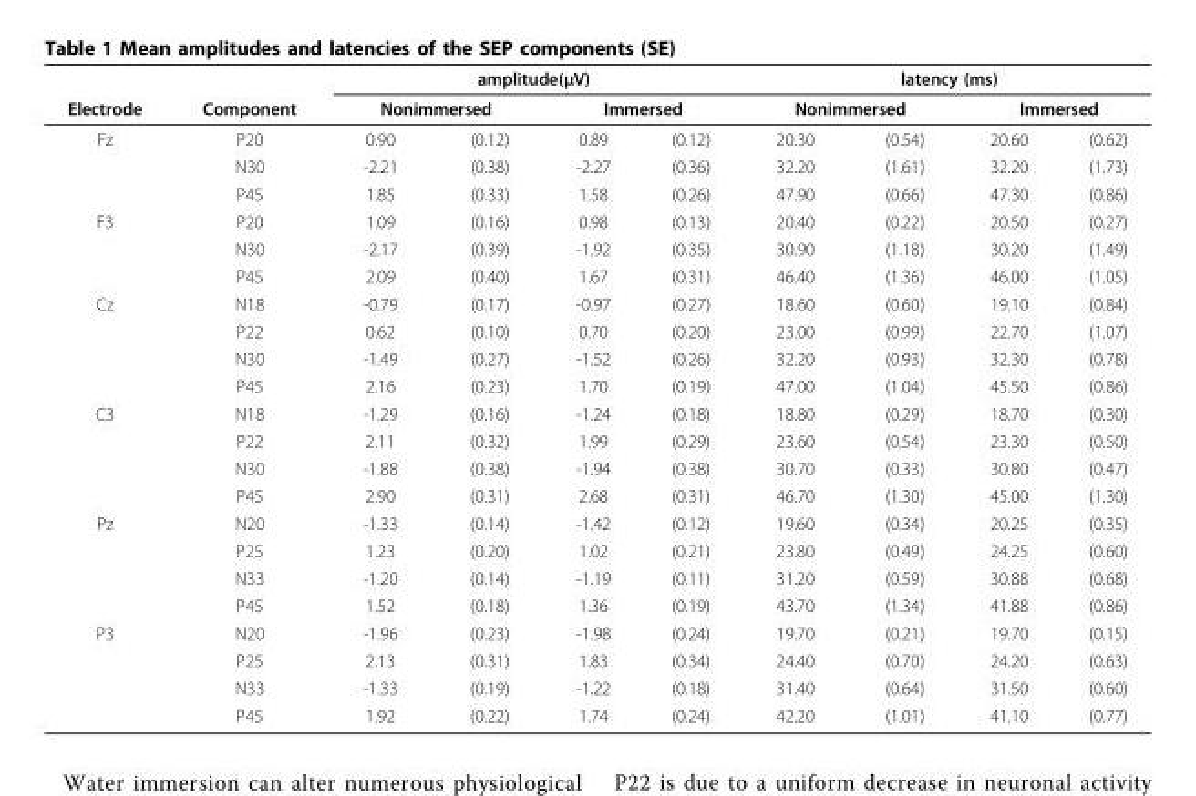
<table><thead><tr><td rowspan="3">Electrode Fz</td><td rowspan="3">Component P20</td><td colspan="4">amplitude(μV)</td><td colspan="4">latency (ms)</td></tr><tr><td colspan="2">Nonimmersed</td><td colspan="2">Immersed</td><td colspan="2">Nonimmersed</td><td colspan="2">Immersed</td></tr><tr><td>0.90</td><td>(0.12)</td><td>0.89</td><td>(0.12)</td><td>20.30</td><td>(0.54)</td><td>20.60</td><td>(0.62)</td></tr></thead><tbody><tr><td></td><td>N30</td><td>-2.21</td><td>(0.38)</td><td>-2.27</td><td>(0.36)</td><td>32.20</td><td>(1.61)</td><td>32.20</td><td>(1.73)</td></tr><tr><td></td><td>P45</td><td>1.85</td><td>(0.33)</td><td>1.58</td><td>(0.26)</td><td>47.90</td><td>(0.66)</td><td>47.30</td><td>(0.86)</td></tr><tr><td rowspan="3">F3</td><td>P20</td><td>1.09</td><td>(0.16)</td><td>0.98</td><td>(0.13)</td><td>20.40</td><td>(0.22)</td><td>20.50</td><td>(0.27)</td></tr><tr><td>N30</td><td>-2.17</td><td>(0.39)</td><td>-1.92</td><td>(0.35)</td><td>30.90</td><td>(1.18)</td><td>30.20</td><td>(1.49)</td></tr><tr><td>P45</td><td>2.09</td><td>(0.40)</td><td>1.67</td><td>(0.31)</td><td>46.40</td><td>(1.36)</td><td>46.00</td><td>(1.05)</td></tr><tr><td rowspan="4">Cz</td><td>N18</td><td>-0.79</td><td>(0.17)</td><td>-0.97</td><td>(0.27)</td><td>18.60</td><td>(0.60)</td><td>19.10</td><td>(0.84)</td></tr><tr><td>P22</td><td>0.62</td><td>(0.10)</td><td>0.70</td><td>(0.20)</td><td>23.00</td><td>(0.99)</td><td>22.70</td><td>(1.07)</td></tr><tr><td>N30</td><td>-1.49</td><td>(0.27)</td><td>-1.52</td><td>(0.26)</td><td>32.20</td><td>(0.93)</td><td>32.30</td><td>(0.78)</td></tr><tr><td>P45</td><td>2.16</td><td>(0.23)</td><td>1.70</td><td>(0.19)</td><td>47.00</td><td>(1.04)</td><td>45.50</td><td>(0.86)</td></tr><tr><td rowspan="4">C3</td><td>N18</td><td>-1.29</td><td>(0.16)</td><td>-1.24</td><td>(0.18)</td><td>18.80</td><td>(0.29)</td><td>18.70</td><td>(0.30)</td></tr><tr><td>P22</td><td>2.11</td><td>(0.32)</td><td>1.99</td><td>(0.29)</td><td>23.60</td><td>(0.54)</td><td>23.30</td><td>(0.50)</td></tr><tr><td>N30</td><td>-1.88</td><td>(0.38)</td><td>-1.94</td><td>(0.38)</td><td>30.70</td><td>(0.33)</td><td>30.80</td><td>(0.47)</td></tr><tr><td>P45</td><td>2.90</td><td>(0.31)</td><td>2.68</td><td>(0.31)</td><td>46.70</td><td>(1.30)</td><td>45.00</td><td>(1.30)</td></tr><tr><td rowspan="4">Pz</td><td>N20</td><td>-1.33</td><td>(0.14)</td><td>-1.42</td><td>(0.12)</td><td>19.60</td><td>(0.34)</td><td>20.25</td><td>(0.35)</td></tr><tr><td>P25</td><td>1.23</td><td>(0.20)</td><td>1.02</td><td>(0.21)</td><td>23.80</td><td>(0.49)</td><td>24.25</td><td>(0.60)</td></tr><tr><td>N33</td><td>-1.20</td><td>(0.14)</td><td>-1.19</td><td>(0.11)</td><td>31.20</td><td>(0.59)</td><td>30.88</td><td>(0.68)</td></tr><tr><td>P45</td><td>1.52</td><td>(0.18)</td><td>1.36</td><td>(0.19)</td><td>43.70</td><td>(1.34)</td><td>41.88</td><td>(0.86)</td></tr><tr><td rowspan="4">P3</td><td>N20</td><td>-1.96</td><td>(0.23)</td><td>-1.98</td><td>(0.24)</td><td>19.70</td><td>(0.21)</td><td>19.70</td><td>(0.15)</td></tr><tr><td>P25</td><td>2.13</td><td>(0.31)</td><td>1.83</td><td>(0.34)</td><td>24.40</td><td>(0.70)</td><td>24.20</td><td>(0.63)</td></tr><tr><td>N33</td><td>-1.33</td><td>(0.19)</td><td>-1.22</td><td>(0.18)</td><td>31.40</td><td>(0.64)</td><td>31.50</td><td>(0.60)</td></tr><tr><td>P45</td><td>1.92</td><td>(0.22)</td><td>1.74</td><td>(0.24)</td><td>42.20</td><td>(1.01)</td><td>41.10</td><td>(0.77)</td></tr></tbody></table>